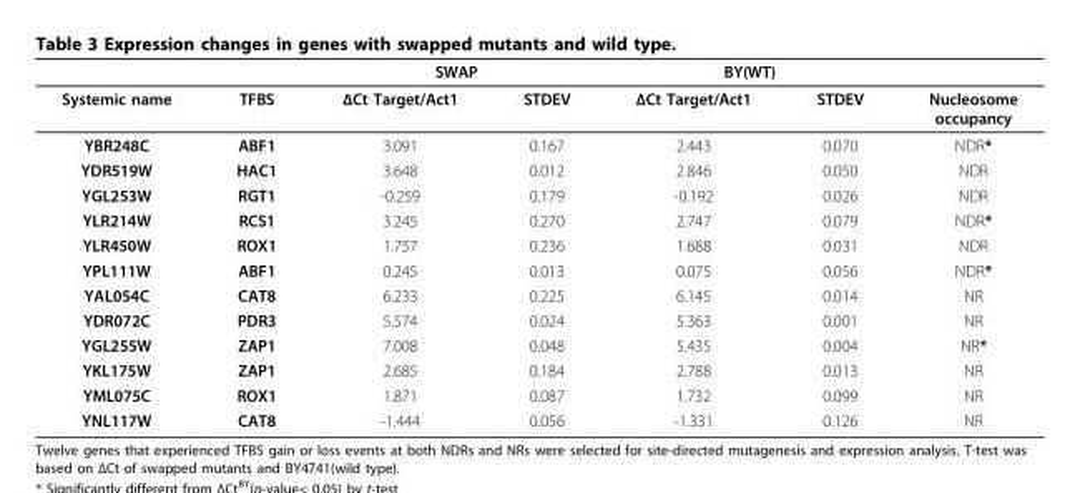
<table><thead><tr><td rowspan="2">Systemic name</td><td rowspan="2">TFBS</td><td colspan="2">SWAP</td><td colspan="2">BY(WT)</td><td rowspan="2">Nucleosome occupancy</td></tr><tr><td>ΔCt Target/Act1</td><td>STDEV</td><td>ΔCt Target/Act1</td><td>STDEV</td></tr></thead><tbody><tr><td>YBR248C</td><td>ABF1</td><td>3.091</td><td>0.167</td><td>2.443</td><td>0.070</td><td>NDR*</td></tr><tr><td>YDR519W</td><td>HAC1</td><td>3.648</td><td>0.012</td><td>2.846</td><td>0.050</td><td>NDR</td></tr><tr><td>YGL253W</td><td>RGT1</td><td>-0.259</td><td>0.179</td><td>-0.192</td><td>0.026</td><td>NDR</td></tr><tr><td>YLR214W</td><td>RCS1</td><td>3.245</td><td>0.270</td><td>2.747</td><td>0.079</td><td>NDR*</td></tr><tr><td>YLR450W</td><td>ROX1</td><td>1.757</td><td>0.236</td><td>1.688</td><td>0.031</td><td>NDR</td></tr><tr><td>YPL111W</td><td>ABF1</td><td>0.245</td><td>0.013</td><td>0.075</td><td>0.056</td><td>NDR*</td></tr><tr><td>YAL054C</td><td>CAT8</td><td>6.233</td><td>0.225</td><td>6.145</td><td>0.014</td><td>NR</td></tr><tr><td>YDR072C</td><td>PDR3</td><td>5.574</td><td>0.024</td><td>5.363</td><td>0.001</td><td>NR</td></tr><tr><td>YGL255W</td><td>ZAP1</td><td>7.008</td><td>0.048</td><td>5.435</td><td>0.004</td><td>NR*</td></tr><tr><td>YKL175W</td><td>ZAP1</td><td>2.685</td><td>0.184</td><td>2.788</td><td>0.013</td><td>NR</td></tr><tr><td>YML075C</td><td>ROX1</td><td>1.871</td><td>0.087</td><td>1.732</td><td>0.099</td><td>NR</td></tr><tr><td>YNL117W</td><td>CAT8</td><td>-1.444</td><td>0.056</td><td>-1.331</td><td>0.126</td><td>NR</td></tr></tbody></table>